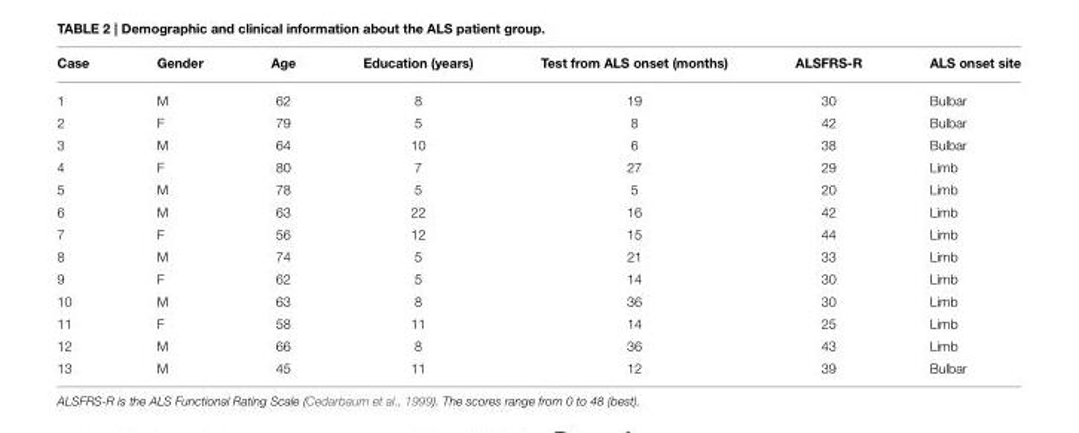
<table><thead><tr><td>Case</td><td>Gender</td><td>Age</td><td>Education (years)</td><td>Test from ALS onset (months)</td><td>ALSFRS-R</td><td>ALS onset site</td></tr></thead><tbody><tr><td>1</td><td>M</td><td>62</td><td>8</td><td>19</td><td>30</td><td>Bulbar</td></tr><tr><td>2</td><td>F</td><td>79</td><td>5</td><td>8</td><td>42</td><td>Bulbar</td></tr><tr><td>3</td><td>M</td><td>64</td><td>10</td><td>6</td><td>38</td><td>Bulbar</td></tr><tr><td>4</td><td>F</td><td>80</td><td>7</td><td>27</td><td>29</td><td>Limb</td></tr><tr><td>5</td><td>M</td><td>78</td><td>5</td><td>5</td><td>20</td><td>Limb</td></tr><tr><td>6</td><td>M</td><td>63</td><td>22</td><td>16</td><td>42</td><td>Limb</td></tr><tr><td>7</td><td>F</td><td>56</td><td>12</td><td>15</td><td>44</td><td>Limb</td></tr><tr><td>8</td><td>M</td><td>74</td><td>5</td><td>21</td><td>33</td><td>Limb</td></tr><tr><td>9</td><td>F</td><td>62</td><td>5</td><td>14</td><td>30</td><td>Limb</td></tr><tr><td>10</td><td>M</td><td>63</td><td>8</td><td>36</td><td>30</td><td>Limb</td></tr><tr><td>11</td><td>F</td><td>58</td><td>11</td><td>14</td><td>25</td><td>Limb</td></tr><tr><td>12</td><td>M</td><td>66</td><td>8</td><td>36</td><td>43</td><td>Limb</td></tr><tr><td>13</td><td>M</td><td>45</td><td>11</td><td>12</td><td>39</td><td>Bulbar</td></tr></tbody></table>